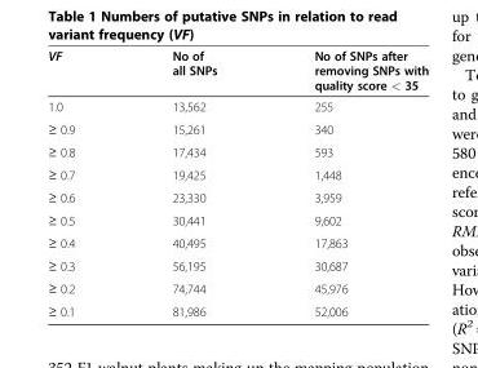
<table><thead><tr><td>VF</td><td>No of all SNPs</td><td>No of SNPs after removing SNPs with quality score &lt; 35</td></tr></thead><tbody><tr><td>1.0</td><td>13,562</td><td>255</td></tr><tr><td>≥ 0.9</td><td>15,261</td><td>340</td></tr><tr><td>≥ 0.8</td><td>17,434</td><td>593</td></tr><tr><td>≥ 0.7</td><td>19,425</td><td>1,448</td></tr><tr><td>≥ 0.6</td><td>23,330</td><td>3,959</td></tr><tr><td>≥ 0.5</td><td>30,441</td><td>9,602</td></tr><tr><td>≥ 0.4</td><td>40,495</td><td>17,863</td></tr><tr><td>≥ 0.3</td><td>56,195</td><td>30,687</td></tr><tr><td>≥ 0.2</td><td>74,744</td><td>45,976</td></tr><tr><td>≥ 0.1</td><td>81,986</td><td>52,006</td></tr></tbody></table>